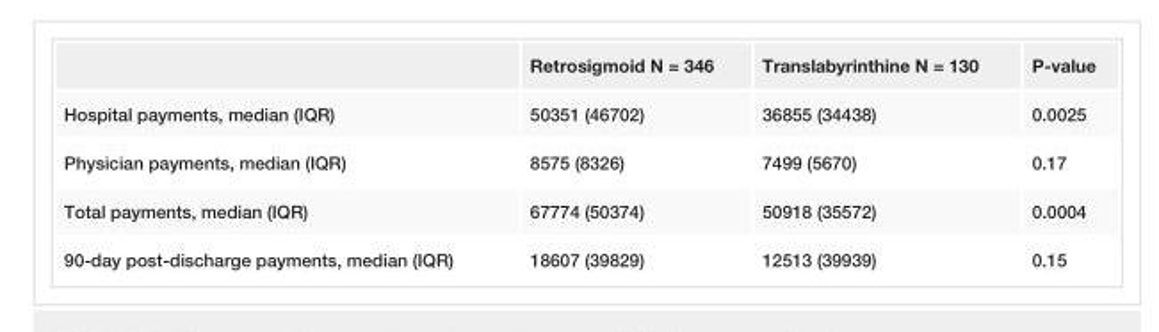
<table><thead><tr><td></td><td>Retrosigmoid N = 346</td><td>Translabyrinthine N = 130</td><td>P-value</td></tr></thead><tbody><tr><td>Hospital payments, median (IQR)</td><td>50351 (46702)</td><td>36855 (34438)</td><td>0.0025</td></tr><tr><td>Physician payments, median (IQR)</td><td>8575 (8326)</td><td>7499 (5670)</td><td>0.17</td></tr><tr><td>Total payments, median (IQR)</td><td>67774 (50374)</td><td>50918 (35572)</td><td>0.0004</td></tr><tr><td>90-day post-discharge payments, median (IQR)</td><td>18607 (39829)</td><td>12513 (39939)</td><td>0.15</td></tr></tbody></table>